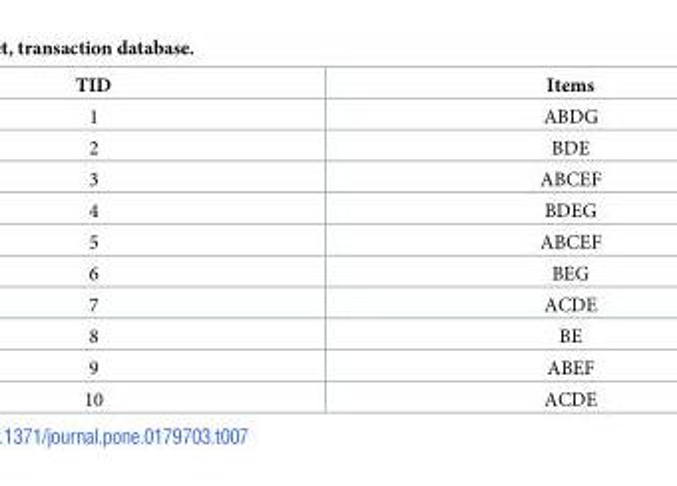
<table><thead><tr><td>TID</td><td>Items</td></tr></thead><tbody><tr><td>1</td><td>ABDG</td></tr><tr><td>2</td><td>BDE</td></tr><tr><td>3</td><td>ABCEF</td></tr><tr><td>4</td><td>BDEG</td></tr><tr><td>5</td><td>ABCEF</td></tr><tr><td>6</td><td>BEG</td></tr><tr><td>7</td><td>ACDE</td></tr><tr><td>8</td><td>BE</td></tr><tr><td>9</td><td>ABEF</td></tr><tr><td>10</td><td>ACDE</td></tr></tbody></table>